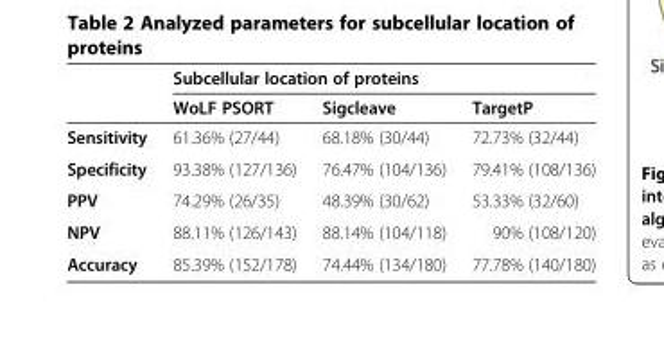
<table><thead><tr><td rowspan="2"></td><td colspan="3">Subcellular location of proteins</td></tr><tr><td>WoLF PSORT</td><td>Sigcleave</td><td>TargetP</td></tr></thead><tbody><tr><td>Sensitivity</td><td>61.36% (27/44)</td><td>68.18% (30/44)</td><td>72.73% (32/44)</td></tr><tr><td>Specificity</td><td>93.38% (127/136)</td><td>76.47% (104/136)</td><td>79.41% (108/136)</td></tr><tr><td>PPV</td><td>74.29% (26/35)</td><td>48.39% (30/62)</td><td>53.33% (32/60)</td></tr><tr><td>NPV</td><td>88.11% (126/143)</td><td>88.14% (104/118)</td><td>90% (108/120)</td></tr><tr><td>Accuracy</td><td>85.39% (152/178)</td><td>74.44% (134/180)</td><td>77.78% (140/180)</td></tr></tbody></table>